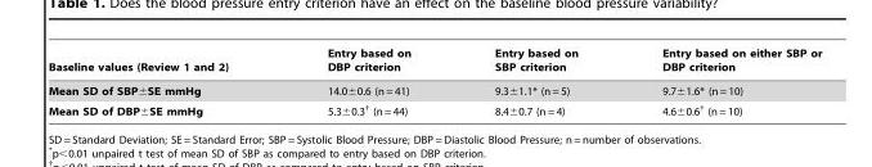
<table><thead><tr><td>Baseline values (Review 1 and 2)</td><td>Entry based on DBP criterion</td><td>Entry based on SBP criterion</td><td>Entry based on either SBP or DBP criterion</td></tr></thead><tbody><tr><td>Mean SD of SBP±SE mmHg</td><td>14.0±0.6 (n = 41)</td><td>9.3±1.1* (n = 5)</td><td>9.7±1.6* (n = 10)</td></tr><tr><td>Mean SD of DBP±SE mmHg</td><td>5.3±0.3† (n = 44)</td><td>8.4±0.7 (n = 4)</td><td>4.6±0.6† (n = 10)</td></tr></tbody></table>